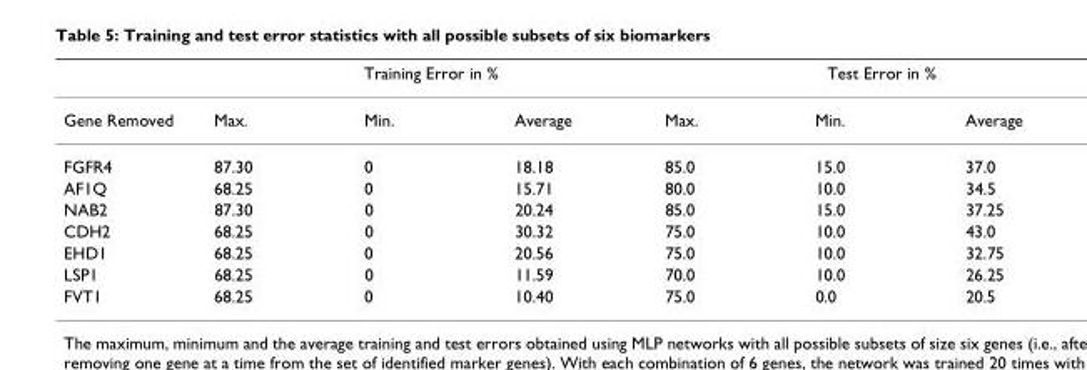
<table><thead><tr><td rowspan="2">Gene Removed</td><td colspan="3">Training Error in %</td><td colspan="3">Test Error in %</td></tr><tr><td>Max.</td><td>Min.</td><td>Average</td><td>Max.</td><td>Min.</td><td>Average</td></tr></thead><tbody><tr><td>FGFR4</td><td>87.30</td><td>0</td><td>18.18</td><td>85.0</td><td>15.0</td><td>37.0</td></tr><tr><td>AF1Q</td><td>68.25</td><td>0</td><td>15.71</td><td>80.0</td><td>10.0</td><td>34.5</td></tr><tr><td>NAB2</td><td>87.30</td><td>0</td><td>20.24</td><td>85.0</td><td>15.0</td><td>37.25</td></tr><tr><td>CDH2</td><td>68.25</td><td>0</td><td>30.32</td><td>75.0</td><td>10.0</td><td>43.0</td></tr><tr><td>EHD1</td><td>68.25</td><td>0</td><td>20.56</td><td>75.0</td><td>10.0</td><td>32.75</td></tr><tr><td>LSP1</td><td>68.25</td><td>0</td><td>11.59</td><td>70.0</td><td>10.0</td><td>26.25</td></tr><tr><td>FVT1</td><td>68.25</td><td>0</td><td>10.40</td><td>75.0</td><td>0.0</td><td>20.5</td></tr></tbody></table>